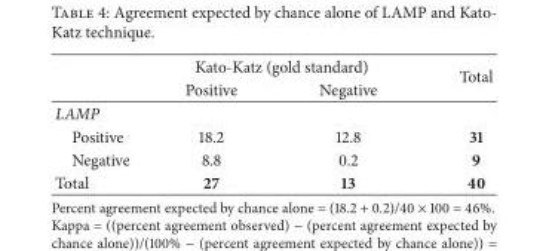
<table><thead><tr><td rowspan="2"></td><td colspan="2">Kato-Katz (gold standard)</td><td rowspan="2">Total</td></tr><tr><td>Positive</td><td>Negative</td></tr></thead><tbody><tr><td colspan="4">LAMP</td></tr><tr><td>Positive</td><td>18.2</td><td>12.8</td><td>31</td></tr><tr><td>Negative</td><td>8.8</td><td>0.2</td><td>9</td></tr><tr><td>Total</td><td>27</td><td>13</td><td>40</td></tr></tbody></table>